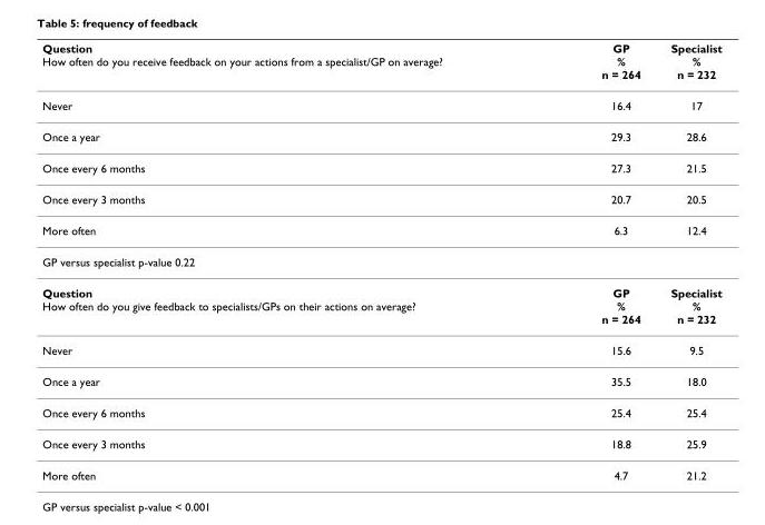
<table><thead><tr><td>Question How often do you receive feedback on your actions from a specialist/GP on average?</td><td>GP % n = 264</td><td>Specialist % n = 232</td></tr></thead><tbody><tr><td>Never</td><td>16.4</td><td>17</td></tr><tr><td>Once a year</td><td>29.3</td><td>28.6</td></tr><tr><td>Once every 6 months</td><td>27.3</td><td>21.5</td></tr><tr><td>Once every 3 months</td><td>20.7</td><td>20.5</td></tr><tr><td>More often</td><td>6.3</td><td>12.4</td></tr><tr><td colspan="3">GP versus specialist p-value 0.22</td></tr><tr><td>Question How often do you give feedback to specialists/GPs on their actions on average?</td><td>GP % n = 264</td><td>Specialist % n = 232</td></tr><tr><td>Never</td><td>15.6</td><td>9.5</td></tr><tr><td>Once a year</td><td>35.5</td><td>18.0</td></tr><tr><td>Once every 6 months</td><td>25.4</td><td>25.4</td></tr><tr><td>Once every 3 months</td><td>18.8</td><td>25.9</td></tr><tr><td>More often</td><td>4.7</td><td>21.2</td></tr></tbody></table>